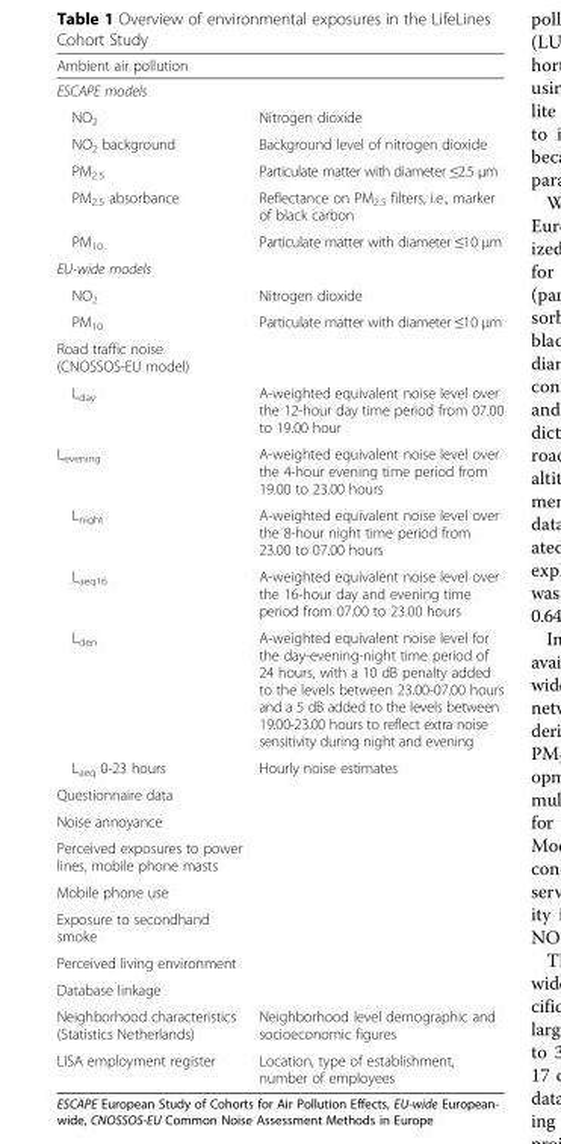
<table><thead><tr><td>Ambient air pollution</td><td></td></tr></thead><tbody><tr><td colspan="2">ESCAPE models</td></tr><tr><td>NO<sub>2</sub></td><td>Nitrogen dioxide</td></tr><tr><td>NO<sub>2</sub> background</td><td>Background level of nitrogen dioxide</td></tr><tr><td>PM<sub>2.5</sub></td><td>Particulate matter with diameter ≤2.5 μm</td></tr><tr><td>PM<sub>2.5</sub> absorbance</td><td>Reflectance on PM<sub>2.5</sub> filters, i.e., marker of black carbon</td></tr><tr><td>PM<sub>10</sub></td><td>Particulate matter with diameter ≤10 μm</td></tr><tr><td colspan="2">EU-wide models</td></tr><tr><td>NO<sub>2</sub></td><td>Nitrogen dioxide</td></tr><tr><td>PM<sub>10</sub></td><td>Particulate matter with diameter ≤10 μm</td></tr><tr><td colspan="2">Road traffic noise (CNOSSOS-EU model)</td></tr><tr><td>L<sub>day</sub></td><td>A-weighted equivalent noise level over the 12-hour day time period from 07.00 to 19.00 hour</td></tr><tr><td>L<sub>evening</sub></td><td>A-weighted equivalent noise level over the 4-hour evening time period from 19.00 to 23.00 hours</td></tr><tr><td>L<sub>night</sub></td><td>A-weighted equivalent noise level over the 8-hour night time period from 23.00 to 07.00 hours</td></tr><tr><td>L<sub>aeq16</sub></td><td>A-weighted equivalent noise level over the 16-hour day and evening time period from 07.00 to 23.00 hours</td></tr><tr><td>L<sub>den</sub></td><td>A-weighted equivalent noise level for the day-evening-night time period of 24 hours, with a 10 dB penalty added to the levels between 23.00-07.00 hours and a 5 dB added to the levels between 19.00-23.00 hours to reflect extra noise sensitivity during night and evening</td></tr><tr><td>L<sub>aeq</sub> 0-23 hours</td><td>Hourly noise estimates</td></tr><tr><td colspan="2">Questionnaire data</td></tr><tr><td colspan="2">Noise annoyance</td></tr><tr><td colspan="2">Perceived exposures to power lines, mobile phone masts</td></tr><tr><td colspan="2">Mobile phone use</td></tr><tr><td colspan="2">Exposure to secondhand smoke</td></tr><tr><td colspan="2">Perceived living environment</td></tr><tr><td colspan="2">Database linkage</td></tr><tr><td>Neighborhood characteristics (Statistics Netherlands)</td><td>Neighborhood level demographic and socioeconomic figures</td></tr><tr><td>LISA employment register</td><td>Location, type of establishment, number of employees</td></tr></tbody></table>